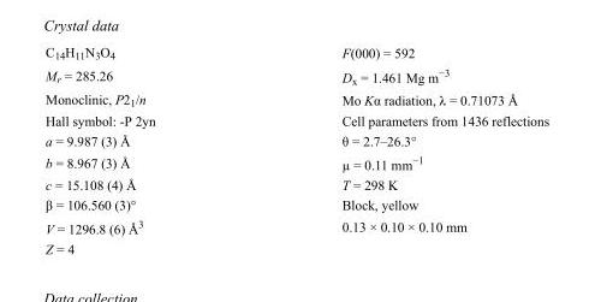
<table><tbody><tr><td>C<sub>14</sub>H<sub>11</sub>N<sub>3</sub>O<sub>4</sub></td><td>F(000) = 592</td></tr><tr><td>M<sub>r</sub> = 285.26</td><td>D<sub>x</sub> = 1.461 Mg m<sup>−3</sup></td></tr><tr><td>Monoclinic, P2<sub>1</sub>/n</td><td>Mo Kα radiation, λ = 0.71073 Å</td></tr><tr><td>Hall symbol: -P 2yn</td><td>Cell parameters from 1436 reflections</td></tr><tr><td>a = 9.987 (3) Å</td><td>θ = 2.7–26.3°</td></tr><tr><td>b = 8.967 (3) Å</td><td>µ = 0.11 mm<sup>−1</sup></td></tr><tr><td>c = 15.108 (4) Å</td><td>T = 298 K</td></tr><tr><td>β = 106.560 (3)°</td><td>Block, yellow</td></tr><tr><td>V = 1296.8 (6) Å<sup>3</sup></td><td>0.13 × 0.10 × 0.10 mm</td></tr><tr><td>Z = 4</td><td></td></tr></tbody></table>